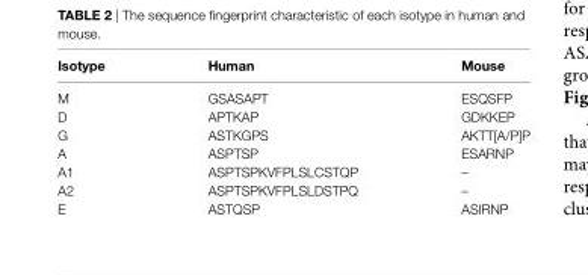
<table><thead><tr><td>Isotype</td><td>human</td><td>Mouse</td></tr></thead><tbody><tr><td>M</td><td>GSASAPT</td><td>ESQSFP</td></tr><tr><td>D</td><td>APTKAP</td><td>GDKKEP</td></tr><tr><td>G</td><td>ASTKGPS</td><td>AKTT[A/P]P</td></tr><tr><td>A</td><td>ASPTSP</td><td>ESARNP</td></tr><tr><td>A1</td><td>ASPTSPKVFPLSLCSTQP</td><td>–</td></tr><tr><td>A2</td><td>ASPTSPKVFPLSLDSTPQ</td><td>–</td></tr><tr><td>E</td><td>ASTQSP</td><td>ASIRNP</td></tr></tbody></table>